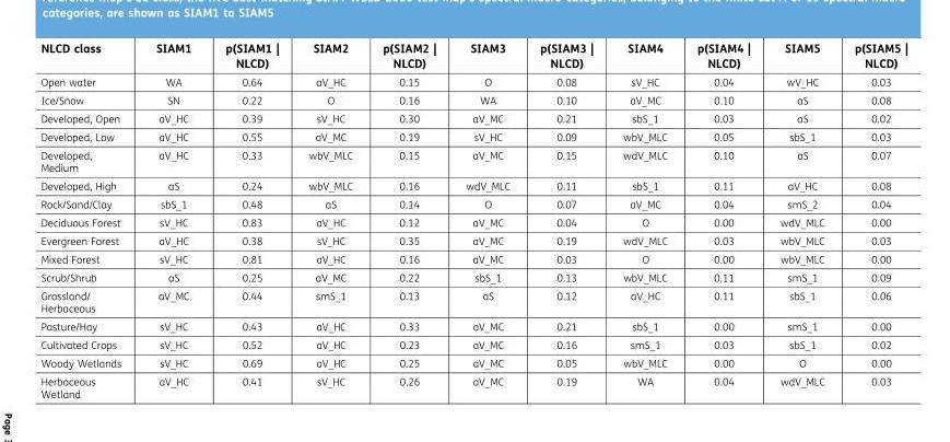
<table><thead><tr><td>NLCD class</td><td>SIAM1</td><td>p(SIAM1 | NLCD)</td><td>SIAM2</td><td>p(SIAM2 | NLCD)</td><td>SIAM3</td><td>p(SIAM3 | NLCD)</td><td>SIAM4</td><td>p(SIAM4 | NLCD)</td><td>SIAM5</td><td>p(SIAM5 | NLCD)</td></tr></thead><tbody><tr><td>Open water</td><td>WA</td><td>0.64</td><td>aV_HC</td><td>0.15</td><td>O</td><td>0.08</td><td>sV_HC</td><td>0.04</td><td>wV_HC</td><td>0.03</td></tr><tr><td>Ice/Snow</td><td>SN</td><td>0.22</td><td>O</td><td>0.16</td><td>WA</td><td>0.10</td><td>aV_MC</td><td>0.10</td><td>aS</td><td>0.08</td></tr><tr><td>Developed, Open</td><td>aV_HC</td><td>0.39</td><td>sV_HC</td><td>0.30</td><td>aV_MC</td><td>0.21</td><td>sbS_1</td><td>0.03</td><td>aS</td><td>0.02</td></tr><tr><td>Developed, Low</td><td>aV_HC</td><td>0.55</td><td>aV_MC</td><td>0.19</td><td>sV_HC</td><td>0.09</td><td>wbV_MLC</td><td>0.05</td><td>sbS_1</td><td>0.03</td></tr><tr><td>Developed, Medium</td><td>aV_HC</td><td>0.33</td><td>wbV_MLC</td><td>0.15</td><td>aV_MC</td><td>0.15</td><td>wdV_MLC</td><td>0.10</td><td>aS</td><td>0.07</td></tr><tr><td>Developed, High</td><td>aS</td><td>0.24</td><td>wbV_MLC</td><td>0.16</td><td>wdV_MLC</td><td>0.11</td><td>sbS_1</td><td>0.11</td><td>aV_HC</td><td>0.08</td></tr><tr><td>Rock/Sand/Clay</td><td>sbS_1</td><td>0.48</td><td>aS</td><td>0.14</td><td>O</td><td>0.07</td><td>aV_MC</td><td>0.04</td><td>smS_2</td><td>0.04</td></tr><tr><td>Deciduous Forest</td><td>sV_HC</td><td>0.83</td><td>aV_HC</td><td>0.12</td><td>aV_MC</td><td>0.04</td><td>O</td><td>0.00</td><td>wdV_MLC</td><td>0.00</td></tr><tr><td>Evergreen Forest</td><td>aV_HC</td><td>0.38</td><td>sV_HC</td><td>0.35</td><td>aV_MC</td><td>0.19</td><td>wdV_MLC</td><td>0.03</td><td>wbV_MLC</td><td>0.03</td></tr><tr><td>Mixed Forest</td><td>sV_HC</td><td>0.81</td><td>aV_HC</td><td>0.16</td><td>aV_MC</td><td>0.03</td><td>O</td><td>0.00</td><td>wbV_MLC</td><td>0.00</td></tr><tr><td>Scrub/Shrub</td><td>aS</td><td>0.25</td><td>aV_MC</td><td>0.22</td><td>sbS_1</td><td>0.13</td><td>wbV_MLC</td><td>0.11</td><td>smS_1</td><td>0.09</td></tr><tr><td>Grassland/ Herbaceous</td><td>aV_MC</td><td>0.44</td><td>smS_1</td><td>0.13</td><td>aS</td><td>0.12</td><td>aV_HC</td><td>0.11</td><td>sbS_1</td><td>0.06</td></tr><tr><td>Pasture/Hay</td><td>sV_HC</td><td>0.43</td><td>aV_HC</td><td>0.33</td><td>aV_MC</td><td>0.21</td><td>sbS_1</td><td>0.00</td><td>smS_1</td><td>0.00</td></tr><tr><td>Cultivated Crops</td><td>sV_HC</td><td>0.52</td><td>aV_HC</td><td>0.23</td><td>aV_MC</td><td>0.16</td><td>smS_1</td><td>0.03</td><td>sbS_1</td><td>0.02</td></tr><tr><td>Woody Wetlands</td><td>sV_HC</td><td>0.69</td><td>aV_HC</td><td>0.25</td><td>aV_MC</td><td>0.05</td><td>wbV_MLC</td><td>0.00</td><td>O</td><td>0.00</td></tr><tr><td>Herbaceous Wetland</td><td>aV_HC</td><td>0.41</td><td>sV_HC</td><td>0.26</td><td>aV_MC</td><td>0.19</td><td>WA</td><td>0.04</td><td>wdV_MLC</td><td>0.03</td></tr></tbody></table>